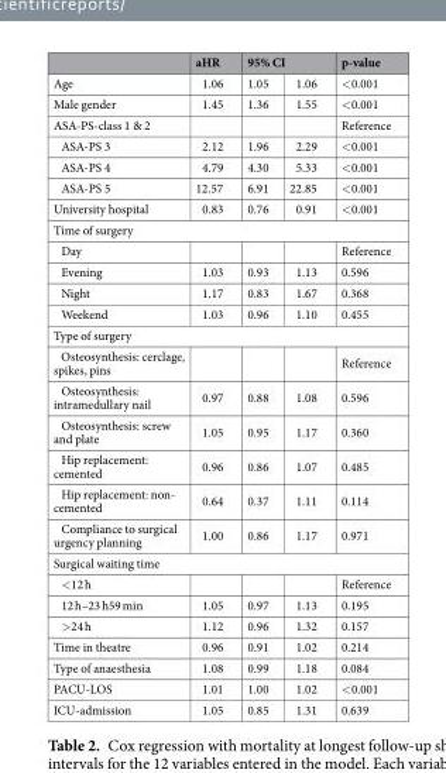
<table><thead><tr><td rowspan="2">Age</td><td rowspan="2">aHR 1.06</td><td colspan="2">95% CI</td><td rowspan="2">p-value &lt;0.001</td></tr><tr><td>1.05</td><td>1.06</td></tr></thead><tbody><tr><td>Male gender</td><td>1.45</td><td>1.36</td><td>1.55</td><td>&lt;0.001</td></tr><tr><td>ASA-PS-class 1 &amp; 2</td><td></td><td></td><td></td><td>Reference</td></tr><tr><td>ASA-PS 3</td><td>2.12</td><td>1.96</td><td>2.29</td><td>&lt;0.001</td></tr><tr><td>ASA-PS 4</td><td>4.79</td><td>4.30</td><td>5.33</td><td>&lt;0.001</td></tr><tr><td>ASA-PS 5</td><td>12.57</td><td>6.91</td><td>22.85</td><td>&lt;0.001</td></tr><tr><td>University hospital</td><td>0.83</td><td>0.76</td><td>0.91</td><td>&lt;0.001</td></tr><tr><td colspan="5">Time of surgery</td></tr><tr><td>Day</td><td></td><td></td><td></td><td>Reference</td></tr><tr><td>Evening</td><td>1.03</td><td>0.93</td><td>1.13</td><td>0.596</td></tr><tr><td>Night</td><td>1.17</td><td>0.83</td><td>1.67</td><td>0.368</td></tr><tr><td>Weekend</td><td>1.03</td><td>0.96</td><td>1.10</td><td>0.455</td></tr><tr><td colspan="5">Type of surgery</td></tr><tr><td>Osteosynthesis: cerclage, spikes, pins</td><td></td><td></td><td></td><td>Reference</td></tr><tr><td>Osteosynthesis: intramedullary nail</td><td>0.97</td><td>0.88</td><td>1.08</td><td>0.596</td></tr><tr><td>Osteosynthesis: screw and plate</td><td>1.05</td><td>0.95</td><td>1.17</td><td>0.360</td></tr><tr><td>Hip replacement: cemented</td><td>0.96</td><td>0.86</td><td>1.07</td><td>0.485</td></tr><tr><td>Hip replacement: non- cemented</td><td>0.64</td><td>0.37</td><td>1.11</td><td>0.114</td></tr><tr><td>Compliance to surgical urgency planning</td><td>1.00</td><td>0.86</td><td>1.17</td><td>0.971</td></tr><tr><td colspan="5">Surgical waiting time</td></tr><tr><td>&lt;12 h</td><td></td><td></td><td></td><td>Reference</td></tr><tr><td>12 h–23 h59 min</td><td>1.05</td><td>0.97</td><td>1.13</td><td>0.195</td></tr><tr><td>&gt;24 h</td><td>1.12</td><td>0.96</td><td>1.32</td><td>0.157</td></tr><tr><td>Time in theatre</td><td>0.96</td><td>0.91</td><td>1.02</td><td>0.214</td></tr><tr><td>Type of anaesthesia</td><td>1.08</td><td>0.99</td><td>1.18</td><td>0.084</td></tr><tr><td>PACU-LOS</td><td>1.01</td><td>1.00</td><td>1.02</td><td>&lt;0.001</td></tr><tr><td>ICU-admission</td><td>1.05</td><td>0.85</td><td>1.31</td><td>0.639</td></tr></tbody></table>